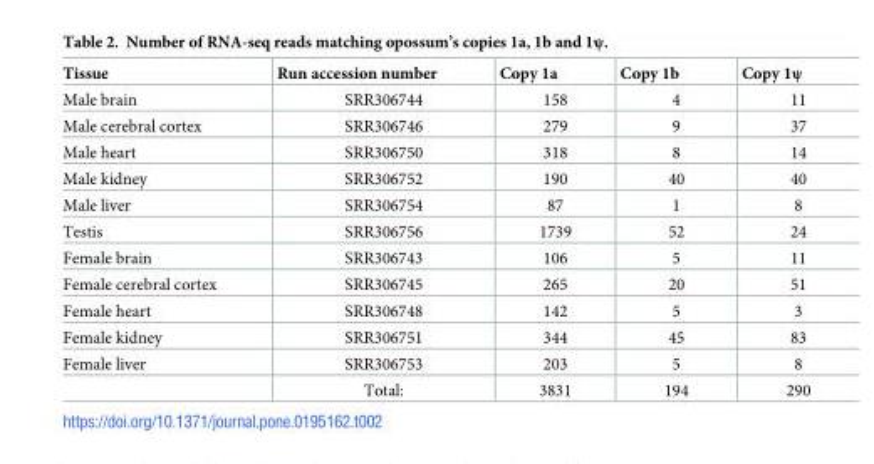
<table><thead><tr><td>Tissue</td><td>Run accession number</td><td>Copy 1a</td><td>Copy 1b</td><td>Copy 1ψ</td></tr></thead><tbody><tr><td>Male brain</td><td>SRR306744</td><td>158</td><td>4</td><td>11</td></tr><tr><td>Male cerebral cortex</td><td>SRR306746</td><td>279</td><td>9</td><td>37</td></tr><tr><td>Male heart</td><td>SRR306750</td><td>318</td><td>8</td><td>14</td></tr><tr><td>Male kidney</td><td>SRR306752</td><td>190</td><td>40</td><td>40</td></tr><tr><td>Male liver</td><td>SRR306754</td><td>87</td><td>1</td><td>8</td></tr><tr><td>Testis</td><td>SRR306756</td><td>1739</td><td>52</td><td>24</td></tr><tr><td>Female brain</td><td>SRR306743</td><td>106</td><td>5</td><td>11</td></tr><tr><td>Female cerebral cortex</td><td>SRR306745</td><td>265</td><td>20</td><td>51</td></tr><tr><td>Female heart</td><td>SRR306748</td><td>142</td><td>5</td><td>3</td></tr><tr><td>Female kidney</td><td>SRR306751</td><td>344</td><td>45</td><td>83</td></tr><tr><td rowspan="2">Female liver</td><td>SRR306753</td><td>203</td><td>5</td><td>8</td></tr><tr><td>Total:</td><td>3831</td><td>194</td><td>290</td></tr></tbody></table>